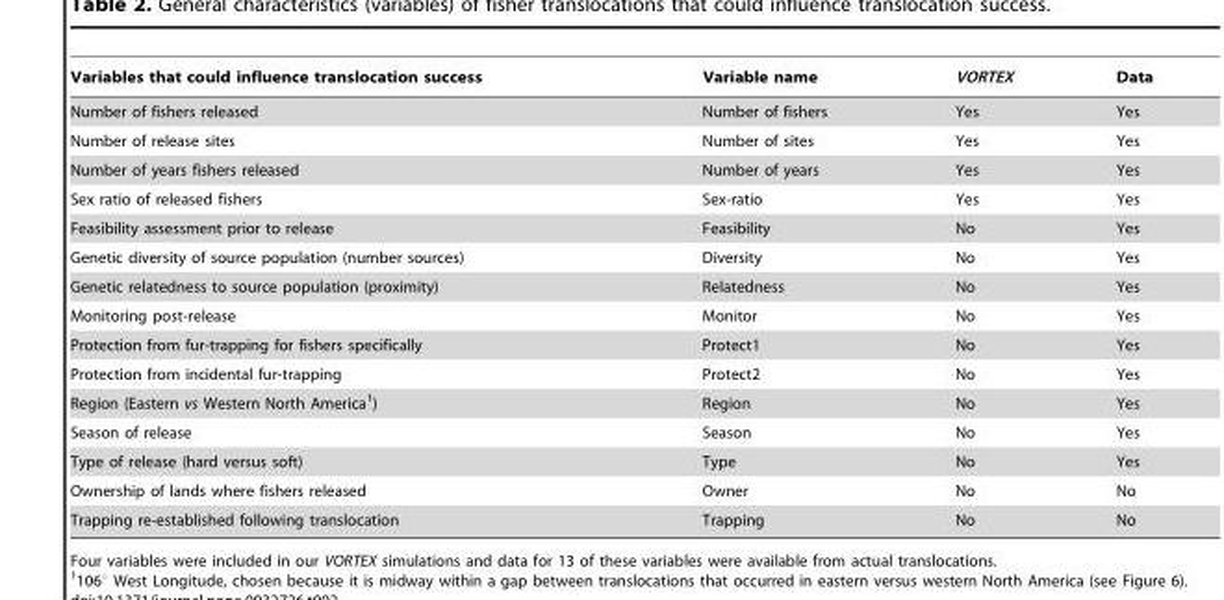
<table><thead><tr><td>Variables that could influence translocation success</td><td>Variable name</td><td>VORTEX</td><td>Data</td></tr></thead><tbody><tr><td>Number of fishers released</td><td>Number of fishers</td><td>Yes</td><td>Yes</td></tr><tr><td>Number of release sites</td><td>Number of sites</td><td>Yes</td><td>Yes</td></tr><tr><td>Number of years fishers released</td><td>Number of years</td><td>Yes</td><td>Yes</td></tr><tr><td>Sex ratio of released fishers</td><td>Sex-ratio</td><td>Yes</td><td>Yes</td></tr><tr><td>Feasibility assessment prior to release</td><td>Feasibility</td><td>No</td><td>Yes</td></tr><tr><td>Genetic diversity of source population (number sources)</td><td>Diversity</td><td>No</td><td>Yes</td></tr><tr><td>Genetic relatedness to source population (proximity)</td><td>Relatedness</td><td>No</td><td>Yes</td></tr><tr><td>Monitoring post-release</td><td>Monitor</td><td>No</td><td>Yes</td></tr><tr><td>Protection from fur-trapping for fishers specifically</td><td>Protect1</td><td>No</td><td>Yes</td></tr><tr><td>Protection from incidental fur-trapping</td><td>Protect2</td><td>No</td><td>Yes</td></tr><tr><td>Region (Eastern vs Western North America<sup>1</sup>)</td><td>Region</td><td>No</td><td>Yes</td></tr><tr><td>Season of release</td><td>Season</td><td>No</td><td>Yes</td></tr><tr><td>Type of release (hard versus soft)</td><td>Type</td><td>No</td><td>Yes</td></tr><tr><td>Ownership of lands where fishers released</td><td>Owner</td><td>No</td><td>No</td></tr><tr><td>Trapping re-established following translocation</td><td>Trapping</td><td>No</td><td>No</td></tr></tbody></table>